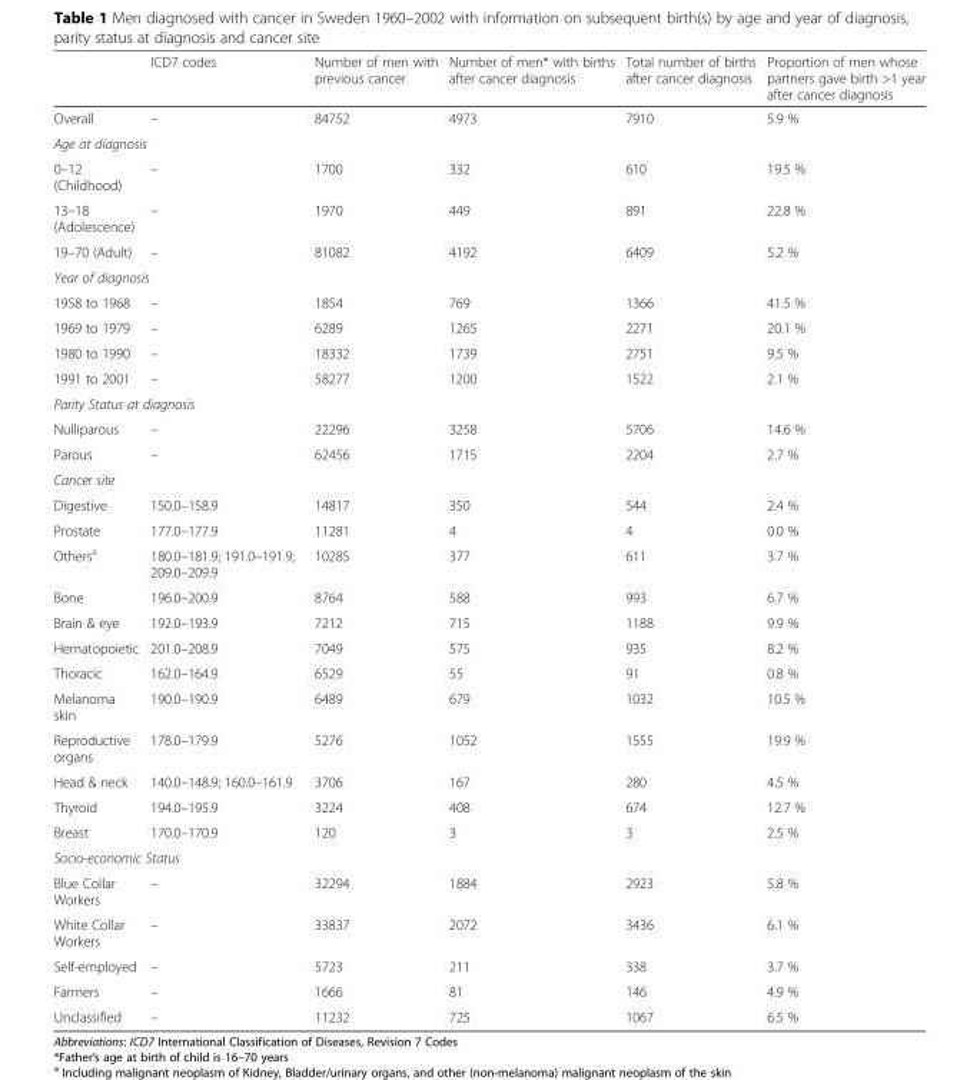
<table><thead><tr><td></td><td>ICD7 codes</td><td>Number of men with previous cancer</td><td>Number of men* with births after cancer diagnosis</td><td>Total number of births after cancer diagnosis</td><td>Proportion of men whose partners gave birth &gt;1 year after cancer diagnosis</td></tr></thead><tbody><tr><td>Overall</td><td>–</td><td>84752</td><td>4973</td><td>7910</td><td>5.9 %</td></tr><tr><td colspan="6">Age at diagnosis</td></tr><tr><td>0–12 (Childhood)</td><td>–</td><td>1700</td><td>332</td><td>610</td><td>19.5 %</td></tr><tr><td>13–18 (Adolescence)</td><td>–</td><td>1970</td><td>449</td><td>891</td><td>22.8 %</td></tr><tr><td>19–70 (Adult)</td><td>–</td><td>81082</td><td>4192</td><td>6409</td><td>5.2 %</td></tr><tr><td colspan="6">Year of diagnosis</td></tr><tr><td>1958 to 1968</td><td>–</td><td>1854</td><td>769</td><td>1366</td><td>41.5 %</td></tr><tr><td>1969 to 1979</td><td>–</td><td>6289</td><td>1265</td><td>2271</td><td>20.1 %</td></tr><tr><td>1980 to 1990</td><td>–</td><td>18332</td><td>1739</td><td>2751</td><td>9.5 %</td></tr><tr><td>1991 to 2001</td><td>–</td><td>58277</td><td>1200</td><td>1522</td><td>2.1 %</td></tr><tr><td colspan="6">Parity Status at diagnosis</td></tr><tr><td>Nulliparous</td><td>–</td><td>22296</td><td>3258</td><td>5706</td><td>14.6 %</td></tr><tr><td>Parous</td><td>–</td><td>62456</td><td>1715</td><td>2204</td><td>2.7 %</td></tr><tr><td colspan="6">Cancer site</td></tr><tr><td>Digestive</td><td>150.0–158.9</td><td>14817</td><td>350</td><td>544</td><td>2.4 %</td></tr><tr><td>Prostate</td><td>177.0–177.9</td><td>11281</td><td>4</td><td>4</td><td>0.0 %</td></tr><tr><td>Others<sup>a</sup></td><td>180.0–181.9; 191.0–191.9; 209.0–209.9</td><td>10285</td><td>377</td><td>611</td><td>3.7 %</td></tr><tr><td>Bone</td><td>196.0–200.9</td><td>8764</td><td>588</td><td>993</td><td>6.7 %</td></tr><tr><td>Brain &amp; eye</td><td>192.0–193.9</td><td>7212</td><td>715</td><td>1188</td><td>9.9 %</td></tr><tr><td>Hematopoietic</td><td>201.0–208.9</td><td>7049</td><td>575</td><td>935</td><td>8.2 %</td></tr><tr><td>Thoracic</td><td>162.0–164.9</td><td>6529</td><td>55</td><td>91</td><td>0.8 %</td></tr><tr><td>Melanoma skin</td><td>190.0–190.9</td><td>6489</td><td>679</td><td>1032</td><td>10.5 %</td></tr><tr><td>Reproductive organs</td><td>178.0–179.9</td><td>5276</td><td>1052</td><td>1555</td><td>19.9 %</td></tr><tr><td>Head &amp; neck</td><td>140.0–148.9; 160.0–161.9</td><td>3706</td><td>167</td><td>280</td><td>4.5 %</td></tr><tr><td>Thyroid</td><td>194.0–195.9</td><td>3224</td><td>408</td><td>674</td><td>12.7 %</td></tr><tr><td>Breast</td><td>170.0–170.9</td><td>120</td><td>3</td><td>3</td><td>2.5 %</td></tr><tr><td colspan="6">Socio-economic Status</td></tr><tr><td>Blue Collar Workers</td><td>–</td><td>32294</td><td>1884</td><td>2923</td><td>5.8 %</td></tr><tr><td>White Collar Workers</td><td>–</td><td>33837</td><td>2072</td><td>3436</td><td>6.1 %</td></tr><tr><td>Self-employed</td><td>–</td><td>5723</td><td>211</td><td>338</td><td>3.7 %</td></tr><tr><td>Farmers</td><td>–</td><td>1666</td><td>81</td><td>146</td><td>4.9 %</td></tr><tr><td>Unclassified</td><td>–</td><td>11232</td><td>725</td><td>1067</td><td>6.5 %</td></tr></tbody></table>